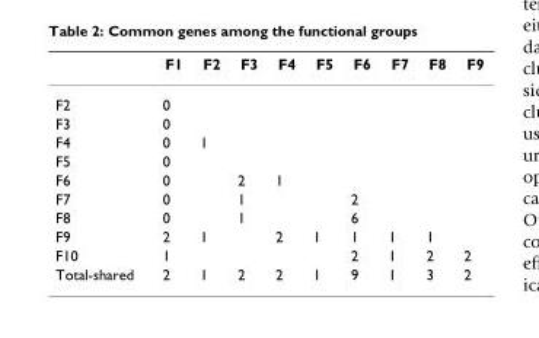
<table><thead><tr><td></td><td>F1</td><td>F2</td><td>F3</td><td>F4</td><td>F5</td><td>F6</td><td>F7</td><td>F8</td><td>F9</td></tr></thead><tbody><tr><td>F2</td><td>0</td><td></td><td></td><td></td><td></td><td></td><td></td><td></td><td></td></tr><tr><td>F3</td><td>0</td><td></td><td></td><td></td><td></td><td></td><td></td><td></td><td></td></tr><tr><td>F4</td><td>0</td><td>1</td><td></td><td></td><td></td><td></td><td></td><td></td><td></td></tr><tr><td>F5</td><td>0</td><td></td><td></td><td></td><td></td><td></td><td></td><td></td><td></td></tr><tr><td>F6</td><td>0</td><td></td><td>2</td><td>1</td><td></td><td></td><td></td><td></td><td></td></tr><tr><td>F7</td><td>0</td><td></td><td>1</td><td></td><td></td><td>2</td><td></td><td></td><td></td></tr><tr><td>F8</td><td>0</td><td></td><td>1</td><td></td><td></td><td>6</td><td></td><td></td><td></td></tr><tr><td>F9</td><td>2</td><td>1</td><td></td><td>2</td><td>1</td><td>1</td><td>1</td><td>1</td><td></td></tr><tr><td>F10</td><td>1</td><td></td><td></td><td></td><td></td><td>2</td><td>1</td><td>2</td><td>2</td></tr><tr><td>Total-shared</td><td>2</td><td>1</td><td>2</td><td>2</td><td>1</td><td>9</td><td>1</td><td>3</td><td>2</td></tr></tbody></table>